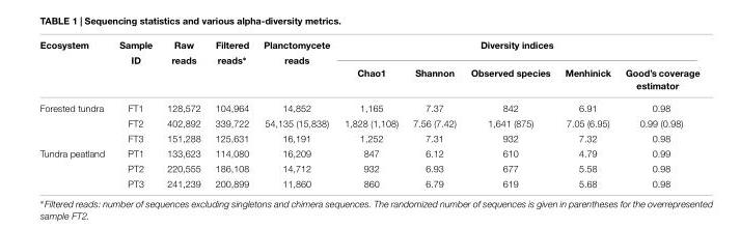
<table><thead><tr><td rowspan="2">Ecosystem</td><td rowspan="2">Sample ID</td><td rowspan="2">Raw reads</td><td rowspan="2">Filtered reads∗</td><td rowspan="2">Planctomycete reads</td><td colspan="5">Diversity indices</td></tr><tr><td>Chao1</td><td>Shannon</td><td>Observed species</td><td>Menhinick</td><td>Good’s coverage estimator</td></tr></thead><tbody><tr><td rowspan="3">Forested tundra</td><td>FT1</td><td>128,572</td><td>104,964</td><td>14,852</td><td>1,165</td><td>7.37</td><td>842</td><td>6.91</td><td>0.98</td></tr><tr><td>FT2</td><td>402,892</td><td>339,722</td><td>54,135 (15,838)</td><td>1,828 (1,108)</td><td>7.56 (7.42)</td><td>1,641 (875)</td><td>7.05 (6.95)</td><td>0.99 (0.98)</td></tr><tr><td>FT3</td><td>151,288</td><td>125,631</td><td>16,191</td><td>1,252</td><td>7.31</td><td>932</td><td>7.32</td><td>0.98</td></tr><tr><td rowspan="3">Tundra peatland</td><td>PT1</td><td>133,623</td><td>114,080</td><td>16,209</td><td>847</td><td>6.12</td><td>610</td><td>4.79</td><td>0.99</td></tr><tr><td>PT2</td><td>220,555</td><td>186,108</td><td>14,712</td><td>932</td><td>6.93</td><td>677</td><td>5.58</td><td>0.98</td></tr><tr><td>PT3</td><td>241,239</td><td>200,899</td><td>11,860</td><td>860</td><td>6.79</td><td>619</td><td>5.68</td><td>0.98</td></tr></tbody></table>